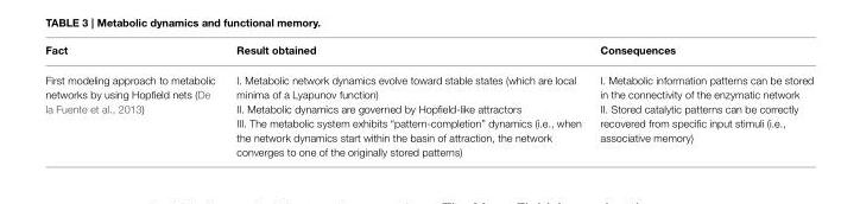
<table><thead><tr><td>Fact</td><td>Result obtained</td><td>Consequences</td></tr></thead><tbody><tr><td>First modeling approach to metabolic networks by using Hopfield nets (De la Fuente et al., 2013)</td><td>I. Metabolic network dynamics evolve toward stable states (which are local minima of a Lyapunov function) II. Metabolic dynamics are governed by Hopfield-like attractors III. The metabolic system exhibits “pattern-completion” dynamics (i.e., when the network dynamics start within the basin of attraction, the network converges to one of the originally stored patterns)</td><td>I. Metabolic information patterns can be stored in the connectivity of the enzymatic network II. Stored catalytic patterns can be correctly recovered from specific input stimuli (i.e., associative memory)</td></tr></tbody></table>